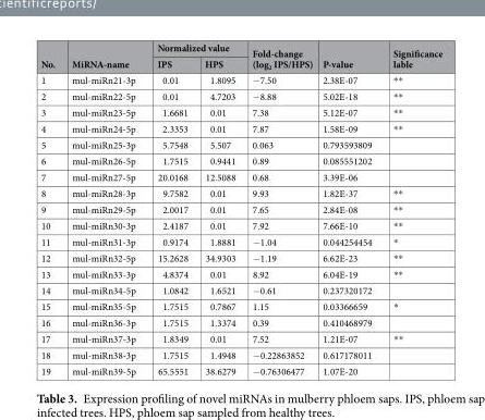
<table><thead><tr><td rowspan="2">No.</td><td rowspan="2">MiRNA-name</td><td colspan="2">Normalized value</td><td rowspan="2">Fold-change (log<sub>2</sub> IPS/HPS)</td><td rowspan="2">P-value</td><td rowspan="2">Significance lable</td></tr><tr><td>IPS</td><td>HPS</td></tr></thead><tbody><tr><td>1</td><td>mul-miRn21-3p</td><td>0.01</td><td>1.8095</td><td>−7.50</td><td>2.38E-07</td><td>**</td></tr><tr><td>2</td><td>mul-miRn22-5p</td><td>0.01</td><td>4.7203</td><td>−8.88</td><td>5.02E-18</td><td>**</td></tr><tr><td>3</td><td>mul-miRn23-5p</td><td>1.6681</td><td>0.01</td><td>7.38</td><td>5.12E-07</td><td>**</td></tr><tr><td>4</td><td>mul-miRn24-5p</td><td>2.3353</td><td>0.01</td><td>7.87</td><td>1.58E-09</td><td>**</td></tr><tr><td>5</td><td>mul-miRn25-3p</td><td>5.7548</td><td>5.507</td><td>0.063</td><td>0.793593809</td><td></td></tr><tr><td>6</td><td>mul-miRn26-5p</td><td>1.7515</td><td>0.9441</td><td>0.89</td><td>0.085551202</td><td></td></tr><tr><td>7</td><td>mul-miRn27-5p</td><td>20.0168</td><td>12.5088</td><td>0.68</td><td>3.39E-06</td><td></td></tr><tr><td>8</td><td>mul-miRn28-3p</td><td>9.7582</td><td>0.01</td><td>9.93</td><td>1.82E-37</td><td>**</td></tr><tr><td>9</td><td>mul-miRn29-5p</td><td>2.0017</td><td>0.01</td><td>7.65</td><td>2.84E-08</td><td>**</td></tr><tr><td>10</td><td>mul-miRn30-3p</td><td>2.4187</td><td>0.01</td><td>7.92</td><td>7.66E-10</td><td>**</td></tr><tr><td>11</td><td>mul-miRn31-3p</td><td>0.9174</td><td>1.8881</td><td>−1.04</td><td>0.044254454</td><td>*</td></tr><tr><td>12</td><td>mul-miRn32-5p</td><td>15.2628</td><td>34.9303</td><td>−1.19</td><td>6.62E-23</td><td>**</td></tr><tr><td>13</td><td>mul-miRn33-3p</td><td>4.8374</td><td>0.01</td><td>8.92</td><td>6.04E-19</td><td>**</td></tr><tr><td>14</td><td>mul-miRn34-5p</td><td>1.0842</td><td>1.6521</td><td>−0.61</td><td>0.237320172</td><td></td></tr><tr><td>15</td><td>mul-miRn35-5p</td><td>1.7515</td><td>0.7867</td><td>1.15</td><td>0.03366659</td><td>*</td></tr><tr><td>16</td><td>mul-miRn36-3p</td><td>1.7515</td><td>1.3374</td><td>0.39</td><td>0.410468979</td><td></td></tr><tr><td>17</td><td>mul-miRn37-3p</td><td>1.8349</td><td>0.01</td><td>7.52</td><td>1.21E-07</td><td>**</td></tr><tr><td>18</td><td>mul-miRn38-3p</td><td>1.7515</td><td>1.4948</td><td>−0.22863852</td><td>0.617178011</td><td></td></tr><tr><td>19</td><td>mul-miRn39-5p</td><td>65.5551</td><td>38.6279</td><td>−0.76306477</td><td>1.07E-20</td><td></td></tr></tbody></table>